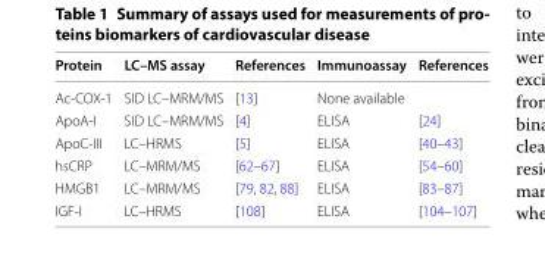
<table><thead><tr><td>Protein</td><td>LC–MS assay</td><td>References</td><td>Immunoassay</td><td>References</td></tr></thead><tbody><tr><td>Ac-COX-1</td><td>SID LC–MRM/MS</td><td>[13]</td><td>None available</td><td></td></tr><tr><td>ApoA-I</td><td>SID LC–MRM/MS</td><td>[4]</td><td>ELISA</td><td>[24]</td></tr><tr><td>ApoC-III</td><td>LC–HRMS</td><td>[5]</td><td>ELISA</td><td>[40–43]</td></tr><tr><td>hsCRP</td><td>LC–MRM/MS</td><td>[62–67]</td><td>ELISA</td><td>[54–60]</td></tr><tr><td>HMGB1</td><td>LC–MRM/MS</td><td>[79, 82, 88]</td><td>ELISA</td><td>[83–87]</td></tr><tr><td>IGF-I</td><td>LC–HRMS</td><td>[108]</td><td>ELISA</td><td>[104–107]</td></tr></tbody></table>